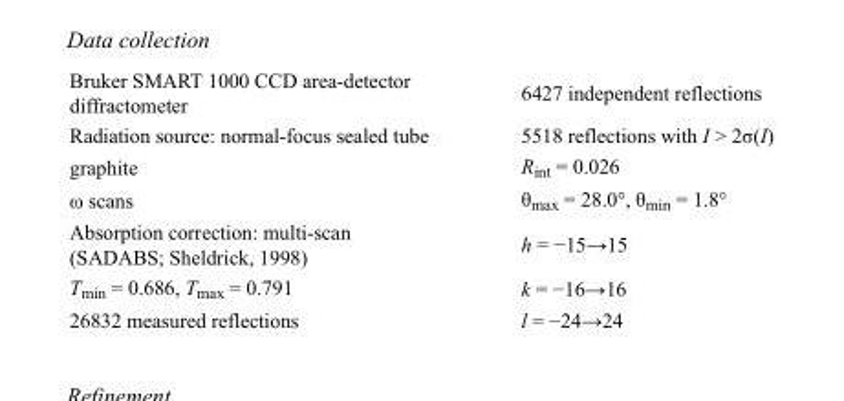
<table><tbody><tr><td>Bruker SMART 1000 CCD area-detector diffractometer</td><td>6427 independent reflections</td></tr><tr><td>Radiation source: normal-focus sealed tube</td><td>5518 reflections with I &gt; 2σ(I)</td></tr><tr><td>graphite</td><td>R<sub>int</sub> = 0.026</td></tr><tr><td>ω scans</td><td>θ<sub>max</sub> = 28.0°, θ<sub>min</sub> = 1.8°</td></tr><tr><td>Absorption correction: multi-scan (SADABS; Sheldrick, 1998)</td><td>h = −15→15</td></tr><tr><td>T<sub>min</sub> = 0.686, T<sub>max</sub> = 0.791</td><td>k = −16→16</td></tr><tr><td>26832 measured reflections</td><td>l = −24→24</td></tr></tbody></table>